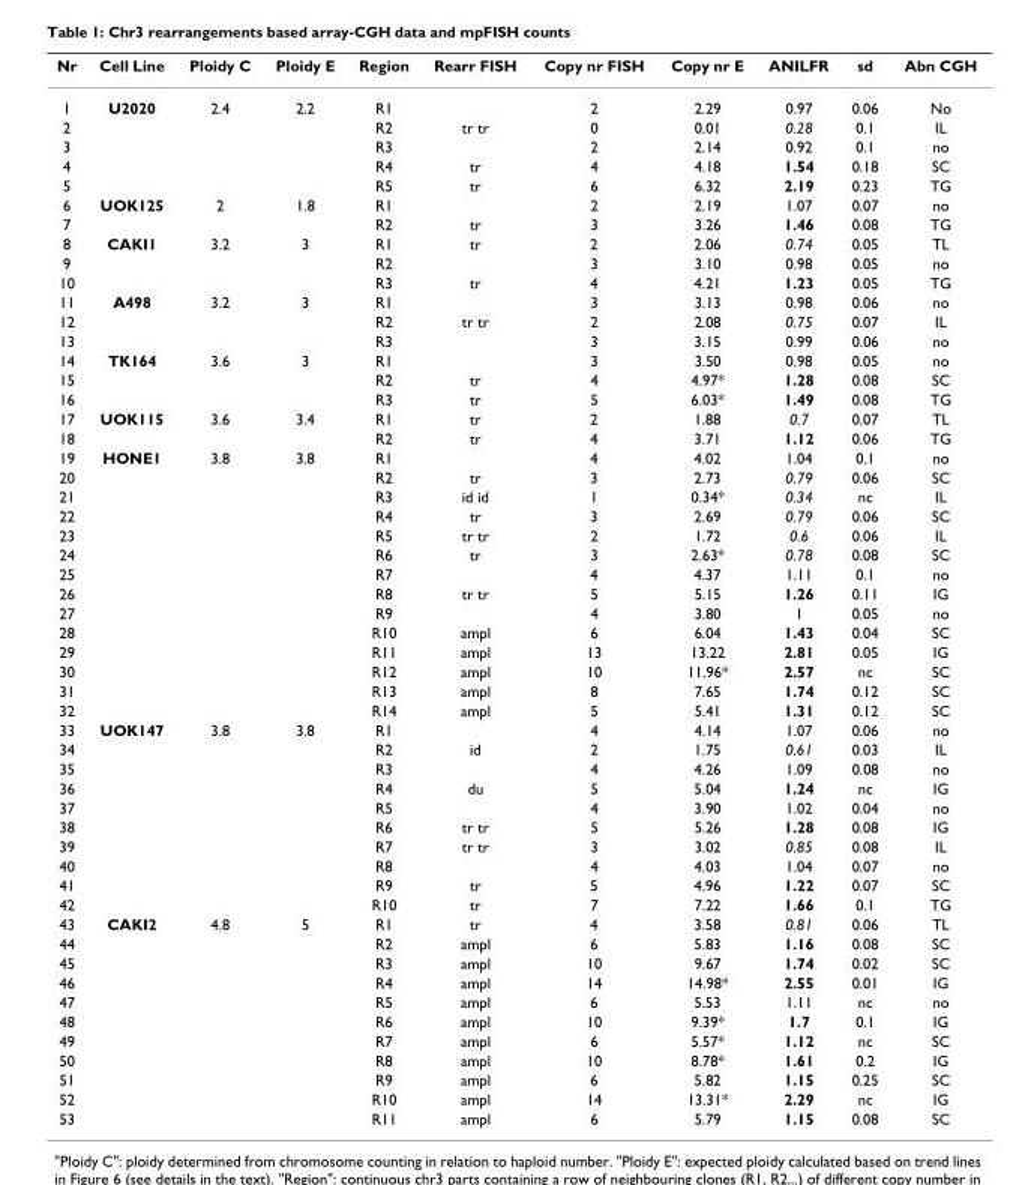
<table><thead><tr><td>Nr</td><td>Cell Line</td><td>Ploidy C</td><td>Ploidy E</td><td>Region</td><td>Rearr FISH</td><td>Copy nr FISH</td><td>Copy nr E</td><td>ANILFR</td><td>sd</td><td>Abn CGH</td></tr></thead><tbody><tr><td>1</td><td>U2020</td><td>2.4</td><td>2.2</td><td>R1</td><td></td><td>2</td><td>2.29</td><td>0.97</td><td>0.06</td><td>No</td></tr><tr><td>2</td><td></td><td></td><td></td><td>R2</td><td>tr tr</td><td>0</td><td>0.01</td><td>0.28</td><td>0.1</td><td>IL</td></tr><tr><td>3</td><td></td><td></td><td></td><td>R3</td><td></td><td>2</td><td>2.14</td><td>0.92</td><td>0.1</td><td>no</td></tr><tr><td>4</td><td></td><td></td><td></td><td>R4</td><td>tr</td><td>4</td><td>4.18</td><td>1.54</td><td>0.18</td><td>SC</td></tr><tr><td>5</td><td></td><td></td><td></td><td>R5</td><td>tr</td><td>6</td><td>6.32</td><td>2.19</td><td>0.23</td><td>TG</td></tr><tr><td>6</td><td>UOK125</td><td>2</td><td>1.8</td><td>R1</td><td></td><td>2</td><td>2.19</td><td>1.07</td><td>0.07</td><td>no</td></tr><tr><td>7</td><td></td><td></td><td></td><td>R2</td><td>tr</td><td>3</td><td>3.26</td><td>1.46</td><td>0.08</td><td>TG</td></tr><tr><td>8</td><td>CAKI1</td><td>3.2</td><td>3</td><td>R1</td><td>tr</td><td>2</td><td>2.06</td><td>0.74</td><td>0.05</td><td>TL</td></tr><tr><td>9</td><td></td><td></td><td></td><td>R2</td><td></td><td>3</td><td>3.10</td><td>0.98</td><td>0.05</td><td>no</td></tr><tr><td>10</td><td></td><td></td><td></td><td>R3</td><td>tr</td><td>4</td><td>4.21</td><td>1.23</td><td>0.05</td><td>TG</td></tr><tr><td>11</td><td>A498</td><td>3.2</td><td>3</td><td>R1</td><td></td><td>3</td><td>3.13</td><td>0.98</td><td>0.06</td><td>no</td></tr><tr><td>12</td><td></td><td></td><td></td><td>R2</td><td>tr tr</td><td>2</td><td>2.08</td><td>0.75</td><td>0.07</td><td>IL</td></tr><tr><td>13</td><td></td><td></td><td></td><td>R3</td><td></td><td>3</td><td>3.15</td><td>0.99</td><td>0.06</td><td>no</td></tr><tr><td>14</td><td>TK164</td><td>3.6</td><td>3</td><td>R1</td><td></td><td>3</td><td>3.50</td><td>0.98</td><td>0.05</td><td>no</td></tr><tr><td>15</td><td></td><td></td><td></td><td>R2</td><td>tr</td><td>4</td><td>4.97*</td><td>1.28</td><td>0.08</td><td>SC</td></tr><tr><td>16</td><td></td><td></td><td></td><td>R3</td><td>tr</td><td>5</td><td>6.03*</td><td>1.49</td><td>0.08</td><td>TG</td></tr><tr><td>17</td><td>UOK115</td><td>3.6</td><td>3.4</td><td>R1</td><td>tr</td><td>2</td><td>1.88</td><td>0.7</td><td>0.07</td><td>TL</td></tr><tr><td>18</td><td></td><td></td><td></td><td>R2</td><td>tr</td><td>4</td><td>3.71</td><td>1.12</td><td>0.06</td><td>TG</td></tr><tr><td>19</td><td>HONE1</td><td>3.8</td><td>3.8</td><td>R1</td><td></td><td>4</td><td>4.02</td><td>1.04</td><td>0.1</td><td>no</td></tr><tr><td>20</td><td></td><td></td><td></td><td>R2</td><td>tr</td><td>3</td><td>2.73</td><td>0.79</td><td>0.06</td><td>SC</td></tr><tr><td>21</td><td></td><td></td><td></td><td>R3</td><td>id id</td><td>1</td><td>0.34*</td><td>0.34</td><td>nc</td><td>IL</td></tr><tr><td>22</td><td></td><td></td><td></td><td>R4</td><td>tr</td><td>3</td><td>2.69</td><td>0.79</td><td>0.06</td><td>SC</td></tr><tr><td>23</td><td></td><td></td><td></td><td>R5</td><td>tr tr</td><td>2</td><td>1.72</td><td>0.6</td><td>0.06</td><td>IL</td></tr><tr><td>24</td><td></td><td></td><td></td><td>R6</td><td>tr</td><td>3</td><td>2.63*</td><td>0.78</td><td>0.08</td><td>SC</td></tr><tr><td>25</td><td></td><td></td><td></td><td>R7</td><td></td><td>4</td><td>4.37</td><td>1.11</td><td>0.1</td><td>no</td></tr><tr><td>26</td><td></td><td></td><td></td><td>R8</td><td>tr tr</td><td>5</td><td>5.15</td><td>1.26</td><td>0.11</td><td>IG</td></tr><tr><td>27</td><td></td><td></td><td></td><td>R9</td><td></td><td>4</td><td>3.80</td><td>1</td><td>0.05</td><td>no</td></tr><tr><td>28</td><td></td><td></td><td></td><td>R10</td><td>ampl</td><td>6</td><td>6.04</td><td>1.43</td><td>0.04</td><td>SC</td></tr><tr><td>29</td><td></td><td></td><td></td><td>R11</td><td>ampl</td><td>13</td><td>13.22</td><td>2.81</td><td>0.05</td><td>IG</td></tr><tr><td>30</td><td></td><td></td><td></td><td>R12</td><td>ampl</td><td>10</td><td>11.96*</td><td>2.57</td><td>nc</td><td>SC</td></tr><tr><td>31</td><td></td><td></td><td></td><td>R13</td><td>ampl</td><td>8</td><td>7.65</td><td>1.74</td><td>0.12</td><td>SC</td></tr><tr><td>32</td><td></td><td></td><td></td><td>R14</td><td>ampl</td><td>5</td><td>5.41</td><td>1.31</td><td>0.12</td><td>SC</td></tr><tr><td>33</td><td>UOK147</td><td>3.8</td><td>3.8</td><td>R1</td><td></td><td>4</td><td>4.14</td><td>1.07</td><td>0.06</td><td>no</td></tr><tr><td>34</td><td></td><td></td><td></td><td>R2</td><td>id</td><td>2</td><td>1.75</td><td>0.61</td><td>0.03</td><td>IL</td></tr><tr><td>35</td><td></td><td></td><td></td><td>R3</td><td></td><td>4</td><td>4.26</td><td>1.09</td><td>0.08</td><td>no</td></tr><tr><td>36</td><td></td><td></td><td></td><td>R4</td><td>du</td><td>5</td><td>5.04</td><td>1.24</td><td>nc</td><td>IG</td></tr><tr><td>37</td><td></td><td></td><td></td><td>R5</td><td></td><td>4</td><td>3.90</td><td>1.02</td><td>0.04</td><td>no</td></tr><tr><td>38</td><td></td><td></td><td></td><td>R6</td><td>tr tr</td><td>5</td><td>5.26</td><td>1.28</td><td>0.08</td><td>IG</td></tr><tr><td>39</td><td></td><td></td><td></td><td>R7</td><td>tr tr</td><td>3</td><td>3.02</td><td>0.85</td><td>0.08</td><td>IL</td></tr><tr><td>40</td><td></td><td></td><td></td><td>R8</td><td></td><td>4</td><td>4.03</td><td>1.04</td><td>0.07</td><td>no</td></tr><tr><td>41</td><td></td><td></td><td></td><td>R9</td><td>tr</td><td>5</td><td>4.96</td><td>1.22</td><td>0.07</td><td>SC</td></tr><tr><td>42</td><td></td><td></td><td></td><td>R10</td><td>tr</td><td>7</td><td>7.22</td><td>1.66</td><td>0.1</td><td>TG</td></tr><tr><td>43</td><td>CAKI2</td><td>4.8</td><td>5</td><td>R1</td><td>tr</td><td>4</td><td>3.58</td><td>0.81</td><td>0.06</td><td>TL</td></tr><tr><td>44</td><td></td><td></td><td></td><td>R2</td><td>ampl</td><td>6</td><td>5.83</td><td>1.16</td><td>0.08</td><td>SC</td></tr><tr><td>45</td><td></td><td></td><td></td><td>R3</td><td>ampl</td><td>10</td><td>9.67</td><td>1.74</td><td>0.02</td><td>SC</td></tr><tr><td>46</td><td></td><td></td><td></td><td>R4</td><td>ampl</td><td>14</td><td>14.98*</td><td>2.55</td><td>0.01</td><td>IG</td></tr><tr><td>47</td><td></td><td></td><td></td><td>R5</td><td>ampl</td><td>6</td><td>5.53</td><td>1.11</td><td>nc</td><td>no</td></tr><tr><td>48</td><td></td><td></td><td></td><td>R6</td><td>ampl</td><td>10</td><td>9.39*</td><td>1.7</td><td>0.1</td><td>IG</td></tr><tr><td>49</td><td></td><td></td><td></td><td>R7</td><td>ampl</td><td>6</td><td>5.57*</td><td>1.12</td><td>nc</td><td>SC</td></tr><tr><td>50</td><td></td><td></td><td></td><td>R8</td><td>ampl</td><td>10</td><td>8.78*</td><td>1.61</td><td>0.2</td><td>IG</td></tr><tr><td>51</td><td></td><td></td><td></td><td>R9</td><td>ampl</td><td>6</td><td>5.82</td><td>1.15</td><td>0.25</td><td>SC</td></tr><tr><td>52</td><td></td><td></td><td></td><td>R10</td><td>ampl</td><td>14</td><td>13.31*</td><td>2.29</td><td>nc</td><td>IG</td></tr><tr><td>53</td><td></td><td></td><td></td><td>R11</td><td>ampl</td><td>6</td><td>5.79</td><td>1.15</td><td>0.08</td><td>SC</td></tr></tbody></table>